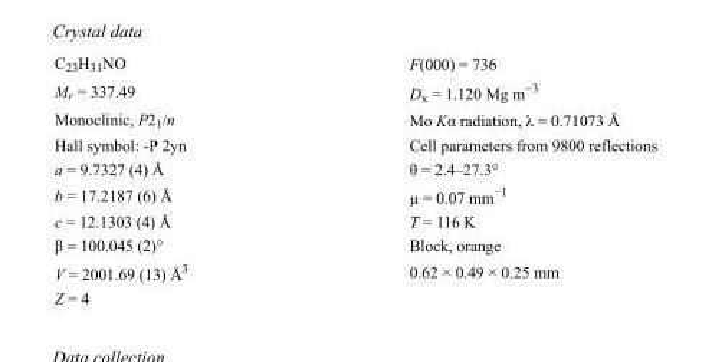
<table><tbody><tr><td>C<sub>23</sub>H<sub>31</sub>NO</td><td>F(000) = 736</td></tr><tr><td>M<sub>r</sub> = 337.49</td><td>D<sub>x</sub> = 1.120 Mg m<sup>−3</sup></td></tr><tr><td>Monoclinic, P2<sub>1</sub>/n</td><td>Mo Kα radiation, λ = 0.71073 Å</td></tr><tr><td>Hall symbol: -P 2yn</td><td>Cell parameters from 9800 reflections</td></tr><tr><td>a = 9.7327 (4) Å</td><td>θ = 2.4–27.3°</td></tr><tr><td>b = 17.2187 (6) Å</td><td>µ = 0.07 mm<sup>−1</sup></td></tr><tr><td>c = 12.1303 (4) Å</td><td>T = 116 K</td></tr><tr><td>β = 100.045 (2)°</td><td>Block, orange</td></tr><tr><td>V = 2001.69 (13) Å<sup>3</sup></td><td>0.62 × 0.49 × 0.25 mm</td></tr><tr><td>Z = 4</td><td></td></tr></tbody></table>